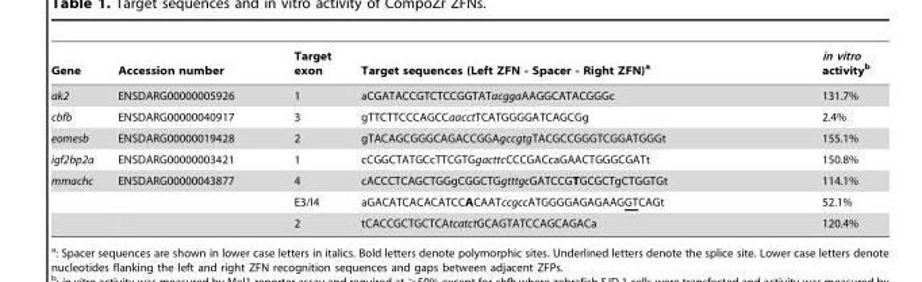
<table><thead><tr><td>Gene</td><td>Accession number</td><td>Target exon</td><td>Target sequences (Left ZFN - Spacer - Right ZFN)<sup>a</sup></td><td>in vitro activity<sup>b</sup></td></tr></thead><tbody><tr><td>ak2</td><td>ENSDARG00000005926</td><td>1</td><td>aCGATACCGTCTCCGGTATacggaAAGGCATACGGGc</td><td>131.7%</td></tr><tr><td>cbfb</td><td>ENSDARG00000040917</td><td>3</td><td>gTTCTTCCCAGCCaacctTCATGGGGATCAGCGg</td><td>2.4%</td></tr><tr><td>eomesb</td><td>ENSDARG00000019428</td><td>2</td><td>gTACAGCGGGCAGACCGGAgccgtgTACGCCGGGTCGGATGGGt</td><td>155.1%</td></tr><tr><td>igf2bp2a</td><td>ENSDARG00000003421</td><td>1</td><td>cCGGCTATGCcTTCGTGgacttcCCCGACcaGAACTGGGCGATt</td><td>150.8%</td></tr><tr><td rowspan="3">mmachc</td><td>ENSDARG00000043877</td><td>4</td><td>cACCCTCAGCTGGgCGGCTGgtttgcGATCCGTGCGCTgCTGGTGt</td><td>114.1%</td></tr><tr><td></td><td>E3/I4</td><td>aGACATCACACATCCACAATccgccATGGGGAGAGAAGGTCAGt</td><td>52.1%</td></tr><tr><td></td><td>2</td><td>tCACCGCTGCTCAtcatctGCAGTATCCAGCAGACa</td><td>120.4%</td></tr></tbody></table>